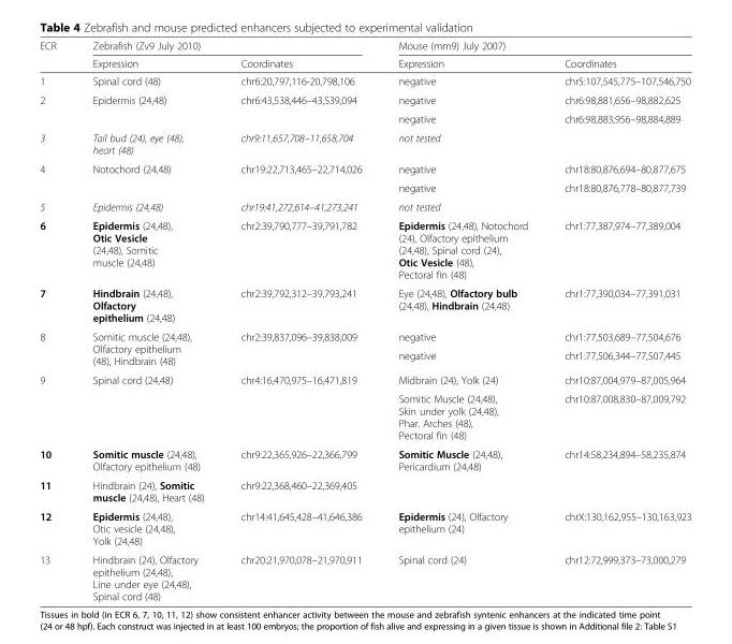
<table><thead><tr><td rowspan="2">ECR</td><td colspan="2">Zebrafish (Zv9 July 2010)</td><td colspan="2">Mouse (mm9) July 2007)</td></tr><tr><td>Expression</td><td>Coordinates</td><td>Expression</td><td>Coordinates</td></tr></thead><tbody><tr><td>1</td><td>Spinal cord (48)</td><td>chr6:20,797,116-20,798,106</td><td>negative</td><td>chr5:107,545,775–107,546,750</td></tr><tr><td rowspan="2">2</td><td rowspan="2">Epidermis (24,48)</td><td rowspan="2">chr6:43,538,446–43,539,094</td><td>negative</td><td>chr6:98,881,656–98,882,625</td></tr><tr><td>negative</td><td>chr6:98,883,956–98,884,889</td></tr><tr><td>3</td><td>Tail bud (24), eye (48), heart (48)</td><td>chr9:11,657,708–11,658,704</td><td>not tested</td><td></td></tr><tr><td rowspan="2">4</td><td rowspan="2">Notochord (24,48)</td><td rowspan="2">chr19:22,713,465–22,714,026</td><td>negative</td><td>chr18:80,876,694–80,877,675</td></tr><tr><td>negative</td><td>chr18:80,876,778–80,877,739</td></tr><tr><td>5</td><td>Epidermis (24,48)</td><td>chr19:41,272,614–41,273,241</td><td>not tested</td><td></td></tr><tr><td>6</td><td>Epidermis (24,48), Otic Vesicle (24,48), Somitic muscle (24,48)</td><td>chr2:39,790,777–39,791,782</td><td>Epidermis (24,48), Notochord (24), Olfactory epithelium (24,48), Spinal cord (24), Otic Vesicle (48), Pectoral fin (48)</td><td>chr1:77,387,974–77,389,004</td></tr><tr><td>7</td><td>Hindbrain (24,48), Olfactory epithelium (24,48)</td><td>chr2:39,792,312–39,793,241</td><td>Eye (24,48), Olfactory bulb (24,48), Hindbrain (24,48)</td><td>chr1:77,390,034–77,391,031</td></tr><tr><td rowspan="2">8</td><td rowspan="2">Somitic muscle (24,48), Olfactory epithelium (48), Hindbrain (48)</td><td rowspan="2">chr2:39,837,096–39,838,009</td><td>negative</td><td>chr1:77,503,689–77,504,676</td></tr><tr><td>negative</td><td>chr1:77,506,344–77,507,445</td></tr><tr><td rowspan="2">9</td><td rowspan="2">Spinal cord (24,48)</td><td rowspan="2">chr4:16,470,975–16,471,819</td><td>Midbrain (24), Yolk (24)</td><td>chr10:87,004,979–87,005,964</td></tr><tr><td>Somitic Muscle (24,48), Skin under yolk (24,48), Phar. Arches (48), Pectoral fin (48)</td><td>chr10:87,008,830–87,009,792</td></tr><tr><td>10</td><td>Somitic muscle (24,48), Olfactory epithelium (48)</td><td>chr9:22,365,926–22,366,799</td><td rowspan="2">Somitic Muscle (24,48), Pericardium (24,48)</td><td rowspan="2">chr14:58,234,894–58,235,874</td></tr><tr><td>11</td><td>Hindbrain (24), Somitic muscle (24,48), Heart (48)</td><td>chr9:22,368,460–22,369,405</td></tr><tr><td>12</td><td>Epidermis (24,48), Otic vesicle (24,48), Yolk (24,48)</td><td>chr14:41,645,428–41,646,386</td><td>Epidermis (24), Olfactory epithelium (24)</td><td>chrX:130,162,955–130,163,923</td></tr><tr><td>13</td><td>Hindbrain (24), Olfactory epithelium (24,48), Line under eye (24,48), Spinal cord (48)</td><td>chr20:21,970,078–21,970,911</td><td>Spinal cord (24)</td><td>chr12:72,999,373–73,000,279</td></tr></tbody></table>